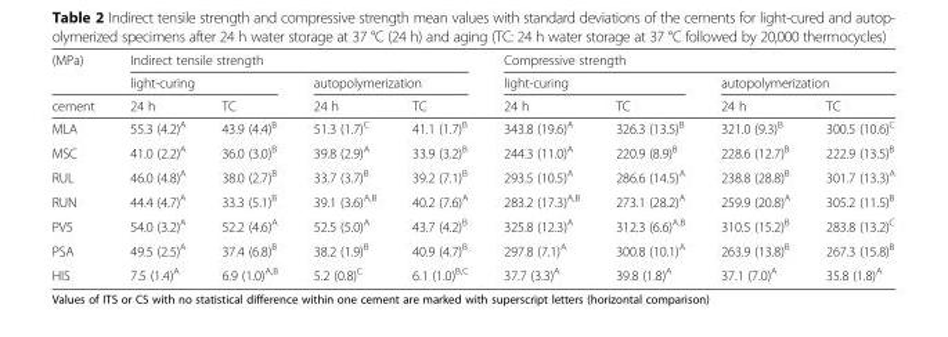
<table><thead><tr><td rowspan="3">(MPa) cement</td><td colspan="4">Indirect tensile strength</td><td colspan="4">Compressive strength</td></tr><tr><td colspan="2">light-curing</td><td colspan="2">autopolymerization</td><td colspan="2">light-curing</td><td colspan="2">autopolymerization</td></tr><tr><td>24 h</td><td>TC</td><td>24 h</td><td>TC</td><td>24 h</td><td>TC</td><td>24 h</td><td>TC</td></tr></thead><tbody><tr><td>MLA</td><td>55.3 (4.2)<sup>A</sup></td><td>43.9 (4.4)<sup>B</sup></td><td>51.3 (1.7)<sup>C</sup></td><td>41.1 (1.7)<sup>B</sup></td><td>343.8 (19.6)<sup>A</sup></td><td>326.3 (13.5)<sup>B</sup></td><td>321.0 (9.3)<sup>B</sup></td><td>300.5 (10.6)<sup>C</sup></td></tr><tr><td>MSC</td><td>41.0 (2.2)<sup>A</sup></td><td>36.0 (3.0)<sup>B</sup></td><td>39.8 (2.9)<sup>A</sup></td><td>33.9 (3.2)<sup>B</sup></td><td>244.3 (11.0)<sup>A</sup></td><td>220.9 (8.9)<sup>B</sup></td><td>228.6 (12.7)<sup>B</sup></td><td>222.9 (13.5)<sup>B</sup></td></tr><tr><td>RUL</td><td>46.0 (4.8)<sup>A</sup></td><td>38.0 (2.7)<sup>B</sup></td><td>33.7 (3.7)<sup>B</sup></td><td>39.2 (7.1)<sup>B</sup></td><td>293.5 (10.5)<sup>A</sup></td><td>286.6 (14.5)<sup>A</sup></td><td>238.8 (28.8)<sup>B</sup></td><td>301.7 (13.3)<sup>A</sup></td></tr><tr><td>RUN</td><td>44.4 (4.7)<sup>A</sup></td><td>33.3 (5.1)<sup>B</sup></td><td>39.1 (3.6)<sup>A,B</sup></td><td>40.2 (7.6)<sup>A</sup></td><td>283.2 (17.3)<sup>A,B</sup></td><td>273.1 (28.2)<sup>A</sup></td><td>259.9 (20.8)<sup>A</sup></td><td>305.2 (11.5)<sup>B</sup></td></tr><tr><td>PV5</td><td>54.0 (3.2)<sup>A</sup></td><td>52.2 (4.6)<sup>A</sup></td><td>52.5 (5.0)<sup>A</sup></td><td>43.7 (4.2)<sup>B</sup></td><td>325.8 (12.3)<sup>A</sup></td><td>312.3 (6.6)<sup>A,B</sup></td><td>310.5 (15.2)<sup>B</sup></td><td>283.8 (13.2)<sup>C</sup></td></tr><tr><td>PSA</td><td>49.5 (2.5)<sup>A</sup></td><td>37.4 (6.8)<sup>B</sup></td><td>38.2 (1.9)<sup>B</sup></td><td>40.9 (4.7)<sup>B</sup></td><td>297.8 (7.1)<sup>A</sup></td><td>300.8 (10.1)<sup>A</sup></td><td>263.9 (13.8)<sup>B</sup></td><td>267.3 (15.8)<sup>B</sup></td></tr><tr><td>HIS</td><td>7.5 (1.4)<sup>A</sup></td><td>6.9 (1.0)<sup>A,B</sup></td><td>5.2 (0.8)<sup>C</sup></td><td>6.1 (1.0)<sup>B,C</sup></td><td>37.7 (3.3)<sup>A</sup></td><td>39.8 (1.8)<sup>A</sup></td><td>37.1 (7.0)<sup>A</sup></td><td>35.8 (1.8)<sup>A</sup></td></tr></tbody></table>